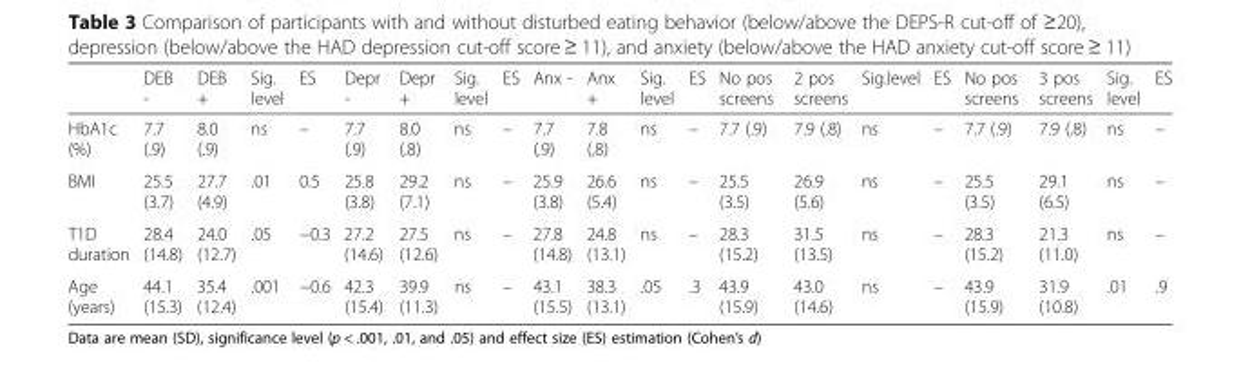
<table><thead><tr><td></td><td>DEB -</td><td>DEB +</td><td>Sig. level</td><td>ES</td><td>Depr -</td><td>Depr +</td><td>Sig. level</td><td>ES</td><td>Anx -</td><td>Anx +</td><td>Sig. level</td><td>ES</td><td>No pos screens</td><td>2 pos screens</td><td>Sig.level</td><td>ES</td><td>No pos screens</td><td>3 pos screens</td><td>Sig. level</td><td>ES</td></tr></thead><tbody><tr><td>HbA1c (%)</td><td>7.7 (.9)</td><td>8.0 (.9)</td><td>ns</td><td>–</td><td>7.7 (.9)</td><td>8.0 (.8)</td><td>ns</td><td>–</td><td>7.7 (.9)</td><td>7.8 (.8)</td><td>ns</td><td>–</td><td>7.7 (.9)</td><td>7.9 (.8)</td><td>ns</td><td>–</td><td>7.7 (.9)</td><td>7.9 (.8)</td><td>ns</td><td>–</td></tr><tr><td>BMI</td><td>25.5 (3.7)</td><td>27.7 (4.9)</td><td>.01</td><td>0.5</td><td>25.8 (3.8)</td><td>29.2 (7.1)</td><td>ns</td><td>–</td><td>25.9 (3.8)</td><td>26.6 (5.4)</td><td>ns</td><td>–</td><td>25.5 (3.5)</td><td>26.9 (5.6)</td><td>ns</td><td>–</td><td>25.5 (3.5)</td><td>29.1 (6.5)</td><td>ns</td><td>–</td></tr><tr><td>T1D duration</td><td>28.4 (14.8)</td><td>24.0 (12.7)</td><td>.05</td><td>−0.3</td><td>27.2 (14.6)</td><td>27.5 (12.6)</td><td>ns</td><td>–</td><td>27.8 (14.8)</td><td>24.8 (13.1)</td><td>ns</td><td>–</td><td>28.3 (15.2)</td><td>31.5 (13.5)</td><td>ns</td><td>–</td><td>28.3 (15.2)</td><td>21.3 (11.0)</td><td>ns</td><td>–</td></tr><tr><td>Age (years)</td><td>44.1 (15.3)</td><td>35.4 (12.4)</td><td>.001</td><td>−0.6</td><td>42.3 (15.4)</td><td>39.9 (11.3)</td><td>ns</td><td>–</td><td>43.1 (15.5)</td><td>38.3 (13.1)</td><td>.05</td><td>.3</td><td>43.9 (15.9)</td><td>43.0 (14.6)</td><td>ns</td><td>–</td><td>43.9 (15.9)</td><td>31.9 (10.8)</td><td>.01</td><td>.9</td></tr></tbody></table>